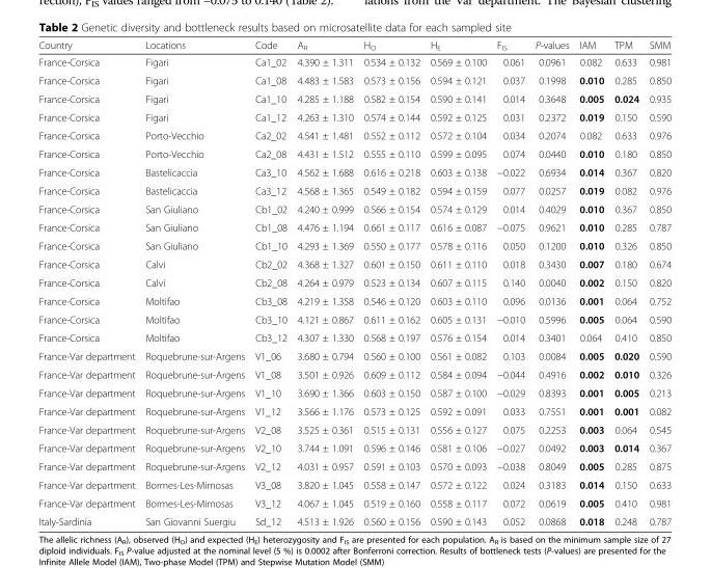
<table><thead><tr><td>Country</td><td>Locations</td><td>Code</td><td>A<sub>R</sub></td><td>H<sub>O</sub></td><td>H<sub>E</sub></td><td>F<sub>IS</sub></td><td>P-values</td><td>IAM</td><td>TPM</td><td>SMM</td></tr></thead><tbody><tr><td>France-Corsica</td><td>Figari</td><td>Ca1_02</td><td>4.390 ± 1.311</td><td>0.534 ± 0.132</td><td>0.569 ± 0.100</td><td>0.061</td><td>0.0961</td><td>0.082</td><td>0.633</td><td>0.981</td></tr><tr><td>France-Corsica</td><td>Figari</td><td>Ca1_08</td><td>4.483 ± 1.583</td><td>0.573 ± 0.156</td><td>0.594 ± 0.121</td><td>0.037</td><td>0.1998</td><td>0.010</td><td>0.285</td><td>0.850</td></tr><tr><td>France-Corsica</td><td>Figari</td><td>Ca1_10</td><td>4.285 ± 1.188</td><td>0.582 ± 0.154</td><td>0.590 ± 0.141</td><td>0.014</td><td>0.3648</td><td>0.005</td><td>0.024</td><td>0.935</td></tr><tr><td>France-Corsica</td><td>Figari</td><td>Ca1_12</td><td>4.263 ± 1.310</td><td>0.574 ± 0.144</td><td>0.592 ± 0.125</td><td>0.031</td><td>0.2372</td><td>0.019</td><td>0.150</td><td>0.590</td></tr><tr><td>France-Corsica</td><td>Porto-Vecchio</td><td>Ca2_02</td><td>4.541 ± 1.481</td><td>0.552 ± 0.112</td><td>0.572 ± 0.104</td><td>0.034</td><td>0.2074</td><td>0.082</td><td>0.633</td><td>0.976</td></tr><tr><td>France-Corsica</td><td>Porto-Vecchio</td><td>Ca2_08</td><td>4.431 ± 1.512</td><td>0.555 ± 0.110</td><td>0.599 ± 0.095</td><td>0.074</td><td>0.0440</td><td>0.010</td><td>0.180</td><td>0.850</td></tr><tr><td>France-Corsica</td><td>Bastelicaccia</td><td>Ca3_10</td><td>4.562 ± 1.688</td><td>0.616 ± 0.218</td><td>0.603 ± 0.138</td><td>−0.022</td><td>0.6934</td><td>0.014</td><td>0.367</td><td>0.820</td></tr><tr><td>France-Corsica</td><td>Bastelicaccia</td><td>Ca3_12</td><td>4.568 ± 1.365</td><td>0.549 ± 0.182</td><td>0.594 ± 0.159</td><td>0.077</td><td>0.0257</td><td>0.019</td><td>0.082</td><td>0.976</td></tr><tr><td>France-Corsica</td><td>San Giuliano</td><td>Cb1_02</td><td>4.240 ± 0.999</td><td>0.566 ± 0.154</td><td>0.574 ± 0.129</td><td>0.014</td><td>0.4029</td><td>0.010</td><td>0.367</td><td>0.850</td></tr><tr><td>France-Corsica</td><td>San Giuliano</td><td>Cb1_08</td><td>4.476 ± 1.194</td><td>0.661 ± 0.117</td><td>0.616 ± 0.087</td><td>−0.075</td><td>0.9621</td><td>0.010</td><td>0.285</td><td>0.787</td></tr><tr><td>France-Corsica</td><td>San Giuliano</td><td>Cb1_10</td><td>4.293 ± 1.369</td><td>0.550 ± 0.177</td><td>0.578 ± 0.116</td><td>0.050</td><td>0.1200</td><td>0.010</td><td>0.326</td><td>0.850</td></tr><tr><td>France-Corsica</td><td>Calvi</td><td>Cb2_02</td><td>4.368 ± 1.327</td><td>0.601 ± 0.150</td><td>0.611 ± 0.110</td><td>0.018</td><td>0.3430</td><td>0.007</td><td>0.180</td><td>0.674</td></tr><tr><td>France-Corsica</td><td>Calvi</td><td>Cb2_08</td><td>4.264 ± 0.979</td><td>0.523 ± 0.134</td><td>0.607 ± 0.115</td><td>0.140</td><td>0.0040</td><td>0.002</td><td>0.150</td><td>0.820</td></tr><tr><td>France-Corsica</td><td>Moltifao</td><td>Cb3_08</td><td>4.219 ± 1.358</td><td>0.546 ± 0.120</td><td>0.603 ± 0.110</td><td>0.096</td><td>0.0136</td><td>0.001</td><td>0.064</td><td>0.752</td></tr><tr><td>France-Corsica</td><td>Moltifao</td><td>Cb3_10</td><td>4.121 ± 0.867</td><td>0.611 ± 0.162</td><td>0.605 ± 0.131</td><td>−0.010</td><td>0.5996</td><td>0.005</td><td>0.064</td><td>0.590</td></tr><tr><td>France-Corsica</td><td>Moltifao</td><td>Cb3_12</td><td>4.307 ± 1.330</td><td>0.568 ± 0.197</td><td>0.576 ± 0.154</td><td>0.014</td><td>0.3401</td><td>0.064</td><td>0.410</td><td>0.850</td></tr><tr><td>France-Var department</td><td>Roquebrune-sur-Argens</td><td>V1_06</td><td>3.680 ± 0.794</td><td>0.560 ± 0.100</td><td>0.561 ± 0.082</td><td>0.103</td><td>0.0084</td><td>0.005</td><td>0.020</td><td>0.590</td></tr><tr><td>France-Var department</td><td>Roquebrune-sur-Argens</td><td>V1_08</td><td>3.501 ± 0.926</td><td>0.609 ± 0.112</td><td>0.584 ± 0.094</td><td>−0.044</td><td>0.4916</td><td>0.002</td><td>0.010</td><td>0.326</td></tr><tr><td>France-Var department</td><td>Roquebrune-sur-Argens</td><td>V1_10</td><td>3.690 ± 1.366</td><td>0.603 ± 0.150</td><td>0.587 ± 0.100</td><td>−0.029</td><td>0.8393</td><td>0.001</td><td>0.005</td><td>0.213</td></tr><tr><td>France-Var department</td><td>Roquebrune-sur-Argens</td><td>V1_12</td><td>3.566 ± 1.176</td><td>0.573 ± 0.125</td><td>0.592 ± 0.091</td><td>0.033</td><td>0.7551</td><td>0.001</td><td>0.001</td><td>0.082</td></tr><tr><td>France-Var department</td><td>Roquebrune-sur-Argens</td><td>V2_08</td><td>3.525 ± 0.361</td><td>0.515 ± 0.131</td><td>0.556 ± 0.127</td><td>0.075</td><td>0.2253</td><td>0.003</td><td>0.064</td><td>0.545</td></tr><tr><td>France-Var department</td><td>Roquebrune-sur-Argens</td><td>V2_10</td><td>3.744 ± 1.091</td><td>0.596 ± 0.146</td><td>0.581 ± 0.106</td><td>−0.027</td><td>0.0492</td><td>0.003</td><td>0.014</td><td>0.367</td></tr><tr><td>France-Var department</td><td>Roquebrune-sur-Argens</td><td>V2_12</td><td>4.031 ± 0.957</td><td>0.591 ± 0.103</td><td>0.570 ± 0.093</td><td>−0.038</td><td>0.8049</td><td>0.005</td><td>0.285</td><td>0.875</td></tr><tr><td>France-Var department</td><td>Bormes-Les-Mimosas</td><td>V3_08</td><td>3.820 ± 1.045</td><td>0.558 ± 0.147</td><td>0.572 ± 0.122</td><td>0.024</td><td>0.3183</td><td>0.014</td><td>0.150</td><td>0.633</td></tr><tr><td>France-Var department</td><td>Bormes-Les-Mimosas</td><td>V3_12</td><td>4.067 ± 1.045</td><td>0.519 ± 0.160</td><td>0.558 ± 0.117</td><td>0.072</td><td>0.0619</td><td>0.005</td><td>0.410</td><td>0.981</td></tr><tr><td>Italy-Sardinia</td><td>San Giovanni Suergiu</td><td>Sd_12</td><td>4.513 ± 1.926</td><td>0.560 ± 0.156</td><td>0.590 ± 0.143</td><td>0.052</td><td>0.0868</td><td>0.018</td><td>0.248</td><td>0.787</td></tr></tbody></table>